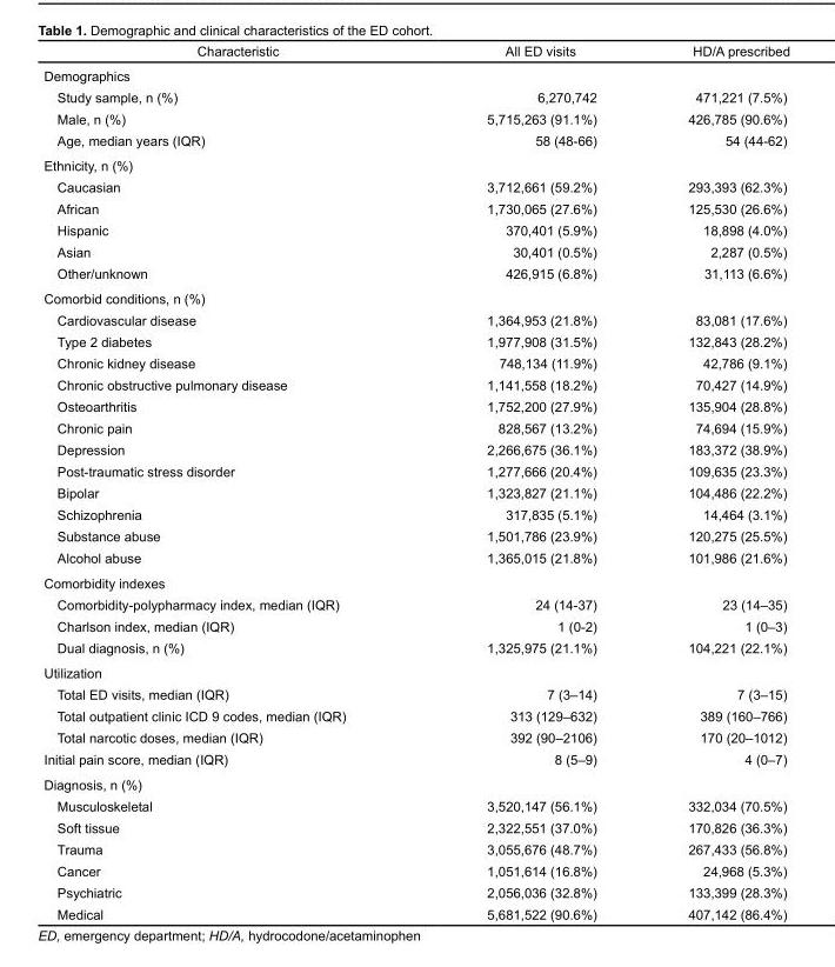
<table><thead><tr><td>Characteristic</td><td>All ED visits</td><td>HD/A prescribed</td></tr></thead><tbody><tr><td colspan="3">Demographics</td></tr><tr><td>Study sample, n (%)</td><td>6,270,742</td><td>471,221 (7.5%)</td></tr><tr><td>Male, n (%)</td><td>5,715,263 (91.1%)</td><td>426,785 (90.6%)</td></tr><tr><td>Age, median years (IQR)</td><td>58 (48-66)</td><td>54 (44-62)</td></tr><tr><td colspan="3">Ethnicity, n (%)</td></tr><tr><td>Caucasian</td><td>3,712,661 (59.2%)</td><td>293,393 (62.3%)</td></tr><tr><td>African</td><td>1,730,065 (27.6%)</td><td>125,530 (26.6%)</td></tr><tr><td>Hispanic</td><td>370,401 (5.9%)</td><td>18,898 (4.0%)</td></tr><tr><td>Asian</td><td>30,401 (0.5%)</td><td>2,287 (0.5%)</td></tr><tr><td>Other/unknown</td><td>426,915 (6.8%)</td><td>31,113 (6.6%)</td></tr><tr><td colspan="3">Comorbid conditions, n (%)</td></tr><tr><td>Cardiovascular disease</td><td>1,364,953 (21.8%)</td><td>83,081 (17.6%)</td></tr><tr><td>Type 2 diabetes</td><td>1,977,908 (31.5%)</td><td>132,843 (28.2%)</td></tr><tr><td>Chronic kidney disease</td><td>748,134 (11.9%)</td><td>42,786 (9.1%)</td></tr><tr><td>Chronic obstructive pulmonary disease</td><td>1,141,558 (18.2%)</td><td>70,427 (14.9%)</td></tr><tr><td>Osteoarthritis</td><td>1,752,200 (27.9%)</td><td>135,904 (28.8%)</td></tr><tr><td>Chronic pain</td><td>828,567 (13.2%)</td><td>74,694 (15.9%)</td></tr><tr><td>Depression</td><td>2,266,675 (36.1%)</td><td>183,372 (38.9%)</td></tr><tr><td>Post-traumatic stress disorder</td><td>1,277,666 (20.4%)</td><td>109,635 (23.3%)</td></tr><tr><td>Bipolar</td><td>1,323,827 (21.1%)</td><td>104,486 (22.2%)</td></tr><tr><td>Schizophrenia</td><td>317,835 (5.1%)</td><td>14,464 (3.1%)</td></tr><tr><td>Substance abuse</td><td>1,501,786 (23.9%)</td><td>120,275 (25.5%)</td></tr><tr><td>Alcohol abuse</td><td>1,365,015 (21.8%)</td><td>101,986 (21.6%)</td></tr><tr><td colspan="3">Comorbidity indexes</td></tr><tr><td>Comorbidity-polypharmacy index, median (IQR)</td><td>24 (14-37)</td><td>23 (14‒35)</td></tr><tr><td>Charlson index, median (IQR)</td><td>1 (0-2)</td><td>1 (0‒3)</td></tr><tr><td>Dual diagnosis, n (%)</td><td>1,325,975 (21.1%)</td><td>104,221 (22.1%)</td></tr><tr><td colspan="3">Utilization</td></tr><tr><td>Total ED visits, median (IQR)</td><td>7 (3‒14)</td><td>7 (3‒15)</td></tr><tr><td>Total outpatient clinic ICD 9 codes, median (IQR)</td><td>313 (129‒632)</td><td>389 (160‒766)</td></tr><tr><td>Total narcotic doses, median (IQR)</td><td>392 (90‒2106)</td><td>170 (20‒1012)</td></tr><tr><td>Initial pain score, median (IQR)</td><td>8 (5‒9)</td><td>4 (0‒7)</td></tr><tr><td colspan="3">Diagnosis, n (%)</td></tr><tr><td>Musculoskeletal</td><td>3,520,147 (56.1%)</td><td>332,034 (70.5%)</td></tr><tr><td>Soft tissue</td><td>2,322,551 (37.0%)</td><td>170,826 (36.3%)</td></tr><tr><td>Trauma</td><td>3,055,676 (48.7%)</td><td>267,433 (56.8%)</td></tr><tr><td>Cancer</td><td>1,051,614 (16.8%)</td><td>24,968 (5.3%)</td></tr><tr><td>Psychiatric</td><td>2,056,036 (32.8%)</td><td>133,399 (28.3%)</td></tr><tr><td>Medical</td><td>5,681,522 (90.6%)</td><td>407,142 (86.4%)</td></tr></tbody></table>